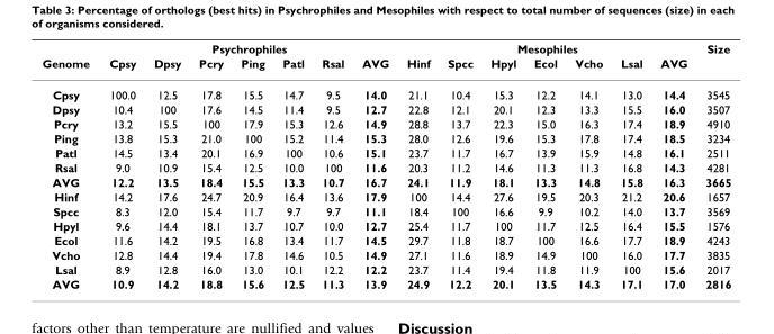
<table><thead><tr><td rowspan="2">Genome</td><td colspan="7">Psychrophiles</td><td colspan="7">Mesophiles</td><td rowspan="2">Size</td></tr><tr><td>Cpsy</td><td>Dpsy</td><td>Pcry</td><td>Ping</td><td>Patl</td><td>Rsal</td><td>AVG</td><td>Hinf</td><td>Spcc</td><td>Hpyl</td><td>Ecol</td><td>Vcho</td><td>Lsal</td><td>AVG</td></tr></thead><tbody><tr><td>Cpsy</td><td>100.0</td><td>12.5</td><td>17.8</td><td>15.5</td><td>14.7</td><td>9.5</td><td>14.0</td><td>21.1</td><td>10.4</td><td>15.3</td><td>12.2</td><td>14.1</td><td>13.0</td><td>14.4</td><td>3545</td></tr><tr><td>Dpsy</td><td>10.4</td><td>100</td><td>17.6</td><td>14.5</td><td>11.4</td><td>9.5</td><td>12.7</td><td>22.8</td><td>12.1</td><td>20.1</td><td>12.3</td><td>13.3</td><td>15.5</td><td>16.0</td><td>3507</td></tr><tr><td>Pcry</td><td>13.2</td><td>15.5</td><td>100</td><td>17.9</td><td>15.3</td><td>12.6</td><td>14.9</td><td>28.8</td><td>13.7</td><td>22.3</td><td>15.0</td><td>16.3</td><td>17.4</td><td>18.9</td><td>4910</td></tr><tr><td>Ping</td><td>13.8</td><td>15.3</td><td>21.0</td><td>100</td><td>15.2</td><td>11.4</td><td>15.3</td><td>28.0</td><td>12.6</td><td>19.6</td><td>15.3</td><td>17.8</td><td>17.4</td><td>18.5</td><td>3234</td></tr><tr><td>Patl</td><td>14.5</td><td>13.4</td><td>20.1</td><td>16.9</td><td>100</td><td>10.6</td><td>15.1</td><td>23.7</td><td>11.7</td><td>16.7</td><td>13.9</td><td>15.9</td><td>14.8</td><td>16.1</td><td>2511</td></tr><tr><td>Rsal</td><td>9.0</td><td>10.9</td><td>15.4</td><td>12.5</td><td>10.0</td><td>100</td><td>11.6</td><td>20.3</td><td>11.2</td><td>14.6</td><td>11.3</td><td>11.3</td><td>16.8</td><td>14.3</td><td>4281</td></tr><tr><td>AVG</td><td>12.2</td><td>13.5</td><td>18.4</td><td>15.5</td><td>13.3</td><td>10.7</td><td>16.7</td><td>24.1</td><td>11.9</td><td>18.1</td><td>13.3</td><td>14.8</td><td>15.8</td><td>16.3</td><td>3665</td></tr><tr><td>Hinf</td><td>14.2</td><td>17.6</td><td>24.7</td><td>20.9</td><td>16.4</td><td>13.6</td><td>17.9</td><td>100</td><td>14.4</td><td>27.6</td><td>19.5</td><td>20.3</td><td>21.2</td><td>20.6</td><td>1657</td></tr><tr><td>Spcc</td><td>8.3</td><td>12.0</td><td>15.4</td><td>11.7</td><td>9.7</td><td>9.7</td><td>11.1</td><td>18.4</td><td>100</td><td>16.6</td><td>9.9</td><td>10.2</td><td>14.0</td><td>13.7</td><td>3569</td></tr><tr><td>Hpyl</td><td>9.6</td><td>14.4</td><td>18.1</td><td>13.7</td><td>10.7</td><td>10.0</td><td>12.7</td><td>25.4</td><td>11.7</td><td>100</td><td>11.7</td><td>12.5</td><td>16.4</td><td>15.5</td><td>1576</td></tr><tr><td>Ecol</td><td>11.6</td><td>14.2</td><td>19.5</td><td>16.8</td><td>13.4</td><td>11.7</td><td>14.5</td><td>29.7</td><td>11.8</td><td>18.7</td><td>100</td><td>16.6</td><td>17.7</td><td>18.9</td><td>4243</td></tr><tr><td>Vcho</td><td>12.8</td><td>14.4</td><td>19.4</td><td>17.8</td><td>14.6</td><td>10.5</td><td>14.9</td><td>27.1</td><td>11.6</td><td>18.9</td><td>14.9</td><td>100</td><td>16.0</td><td>17.7</td><td>3835</td></tr><tr><td>Lsal</td><td>8.9</td><td>12.8</td><td>16.0</td><td>13.0</td><td>10.1</td><td>12.2</td><td>12.2</td><td>23.7</td><td>11.4</td><td>19.4</td><td>11.8</td><td>11.9</td><td>100</td><td>15.6</td><td>2017</td></tr><tr><td>AVG</td><td>10.9</td><td>14.2</td><td>18.8</td><td>15.6</td><td>12.5</td><td>11.3</td><td>13.9</td><td>24.9</td><td>12.2</td><td>20.1</td><td>13.5</td><td>14.3</td><td>17.1</td><td>17.0</td><td>2816</td></tr></tbody></table>